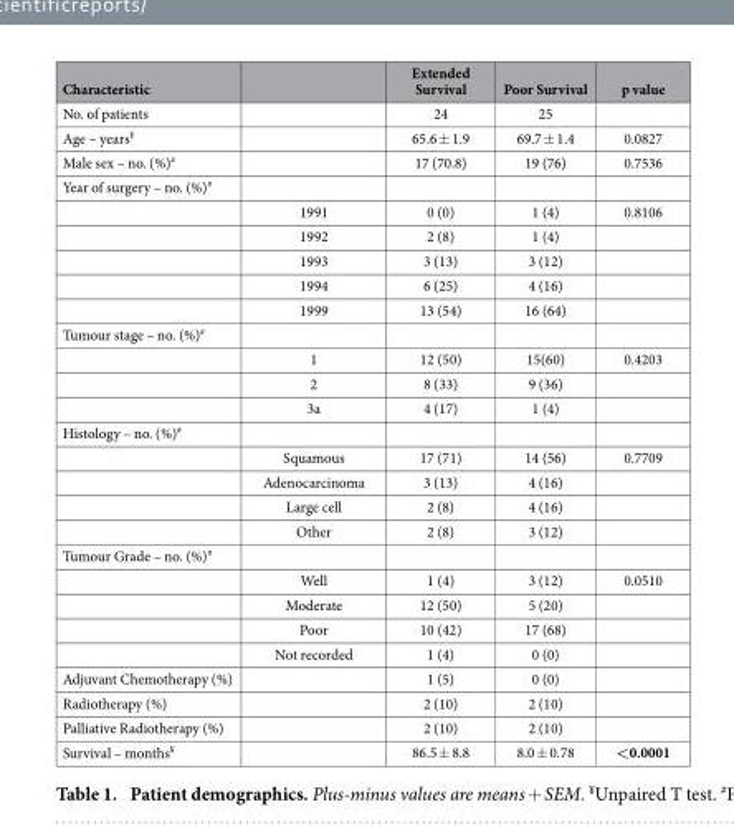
<table><thead><tr><td>Characteristic</td><td></td><td>Extended Survival</td><td>Poor Survival</td><td>p value</td></tr></thead><tbody><tr><td>No. of patients</td><td></td><td>24</td><td>25</td><td></td></tr><tr><td>Age – years¥</td><td></td><td>65.6 ± 1.9</td><td>69.7 ± 1.4</td><td>0.0827</td></tr><tr><td>Male sex – no. (%)#</td><td></td><td>17 (70.8)</td><td>19 (76)</td><td>0.7536</td></tr><tr><td colspan="5">Year of surgery – no. (%)#</td></tr><tr><td></td><td>1991</td><td>0 (0)</td><td>1 (4)</td><td>0.8106</td></tr><tr><td></td><td>1992</td><td>2 (8)</td><td>1 (4)</td><td></td></tr><tr><td></td><td>1993</td><td>3 (13)</td><td>3 (12)</td><td></td></tr><tr><td></td><td>1994</td><td>6 (25)</td><td>4 (16)</td><td></td></tr><tr><td></td><td>1999</td><td>13 (54)</td><td>16 (64)</td><td></td></tr><tr><td colspan="5">Tumour stage – no. (%)#</td></tr><tr><td></td><td>1</td><td>12 (50)</td><td>15(60)</td><td>0.4203</td></tr><tr><td></td><td>2</td><td>8 (33)</td><td>9 (36)</td><td></td></tr><tr><td></td><td>3a</td><td>4 (17)</td><td>1 (4)</td><td></td></tr><tr><td colspan="5">Histology – no. (%)#</td></tr><tr><td></td><td>Squamous</td><td>17 (71)</td><td>14 (56)</td><td>0.7709</td></tr><tr><td></td><td>Adenocarcinoma</td><td>3 (13)</td><td>4 (16)</td><td></td></tr><tr><td></td><td>Large cell</td><td>2 (8)</td><td>4 (16)</td><td></td></tr><tr><td></td><td>Other</td><td>2 (8)</td><td>3 (12)</td><td></td></tr><tr><td colspan="5">Tumour Grade – no. (%)#</td></tr><tr><td></td><td>Well</td><td>1 (4)</td><td>3 (12)</td><td>0.0510</td></tr><tr><td></td><td>Moderate</td><td>12 (50)</td><td>5 (20)</td><td></td></tr><tr><td></td><td>Poor</td><td>10 (42)</td><td>17 (68)</td><td></td></tr><tr><td></td><td>Not recorded</td><td>1 (4)</td><td>0 (0)</td><td></td></tr><tr><td>Adjuvant Chemotherapy (%)</td><td></td><td>1 (5)</td><td>0 (0)</td><td></td></tr><tr><td>Radiotherapy (%)</td><td></td><td>2 (10)</td><td>2 (10)</td><td></td></tr><tr><td>Palliative Radiotherapy (%)</td><td></td><td>2 (10)</td><td>2 (10)</td><td></td></tr><tr><td>Survival – months¥</td><td></td><td>86.5 ± 8.8</td><td>8.0 ± 0.78</td><td>&lt;0.0001</td></tr></tbody></table>